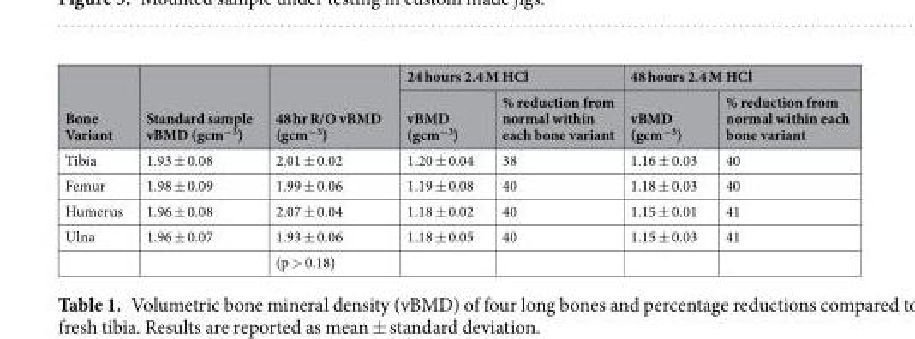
<table><thead><tr><td rowspan="2">Bone Variant</td><td rowspan="2">Standard sample vBMD (gcm<sup>−3</sup>)</td><td rowspan="2">48 hr R/O vBMD (gcm<sup>−3</sup>)</td><td colspan="2">24 hours 2.4 M HCl</td><td colspan="2">48 hours 2.4 M HCl</td></tr><tr><td>vBMD (gcm<sup>−3</sup>)</td><td>% reduction from normal within each bone variant</td><td>vBMD (gcm<sup>−3</sup>)</td><td>% reduction from normal within each bone variant</td></tr></thead><tbody><tr><td>Tibia</td><td>1.93 ± 0.08</td><td>2.01 ± 0.02</td><td>1.20 ± 0.04</td><td>38</td><td>1.16 ± 0.03</td><td>40</td></tr><tr><td>Femur</td><td>1.98 ± 0.09</td><td>1.99 ± 0.06</td><td>1.19 ± 0.08</td><td>40</td><td>1.18 ± 0.03</td><td>40</td></tr><tr><td>Humerus</td><td>1.96 ± 0.08</td><td>2.07 ± 0.04</td><td>1.18 ± 0.02</td><td>40</td><td>1.15 ± 0.01</td><td>41</td></tr><tr><td rowspan="2">Ulna</td><td>1.96 ± 0.07</td><td>1.93 ± 0.06</td><td>1.18 ± 0.05</td><td>40</td><td>1.15 ± 0.03</td><td>41</td></tr><tr><td></td><td>(p &gt; 0.18)</td><td></td><td></td><td></td><td></td></tr></tbody></table>